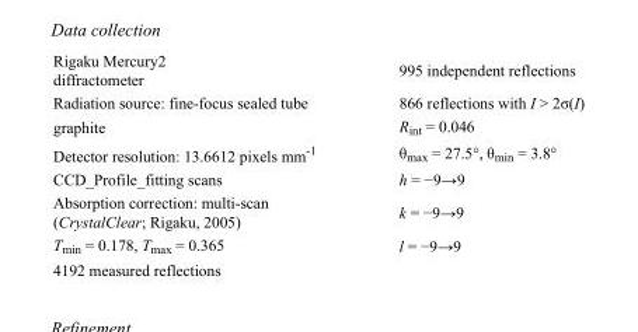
<table><tbody><tr><td>Rigaku Mercury2 diffractometer</td><td>995 independent reflections</td></tr><tr><td>Radiation source: fine-focus sealed tube</td><td>866 reflections with I &gt; 2σ(I)</td></tr><tr><td>graphite</td><td>R<sub>int</sub> = 0.046</td></tr><tr><td>Detector resolution: 13.6612 pixels mm<sup>-1</sup></td><td>θ<sub>max</sub> = 27.5°, θ<sub>min</sub> = 3.8°</td></tr><tr><td>CCD_Profile_fitting scans</td><td>h = −9→9</td></tr><tr><td>Absorption correction: multi-scan (CrystalClear; Rigaku, 2005)</td><td>k = −9→9</td></tr><tr><td>T<sub>min</sub> = 0.178, T<sub>max</sub> = 0.365</td><td>l = −9→9</td></tr><tr><td>4192 measured reflections</td><td></td></tr></tbody></table>